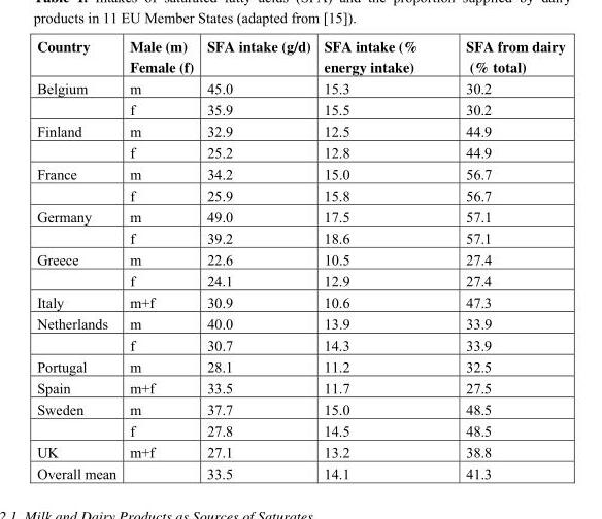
<table><thead><tr><td>Country</td><td>Male (m) Female (f)</td><td>SFA intake (g/d)</td><td>SFA intake (% energy intake)</td><td>SFA from dairy (% total)</td></tr></thead><tbody><tr><td rowspan="2">Belgium</td><td>m</td><td>45.0</td><td>15.3</td><td>30.2</td></tr><tr><td>f</td><td>35.9</td><td>15.5</td><td>30.2</td></tr><tr><td rowspan="2">Finland</td><td>m</td><td>32.9</td><td>12.5</td><td>44.9</td></tr><tr><td>f</td><td>25.2</td><td>12.8</td><td>44.9</td></tr><tr><td rowspan="2">France</td><td>m</td><td>34.2</td><td>15.0</td><td>56.7</td></tr><tr><td>f</td><td>25.9</td><td>15.8</td><td>56.7</td></tr><tr><td rowspan="2">Germany</td><td>m</td><td>49.0</td><td>17.5</td><td>57.1</td></tr><tr><td>f</td><td>39.2</td><td>18.6</td><td>57.1</td></tr><tr><td rowspan="2">Greece</td><td>m</td><td>22.6</td><td>10.5</td><td>27.4</td></tr><tr><td>f</td><td>24.1</td><td>12.9</td><td>27.4</td></tr><tr><td>Italy</td><td>m+f</td><td>30.9</td><td>10.6</td><td>47.3</td></tr><tr><td rowspan="2">Netherlands</td><td>m</td><td>40.0</td><td>13.9</td><td>33.9</td></tr><tr><td>f</td><td>30.7</td><td>14.3</td><td>33.9</td></tr><tr><td>Portugal</td><td>m</td><td>28.1</td><td>11.2</td><td>32.5</td></tr><tr><td>Spain</td><td>m+f</td><td>33.5</td><td>11.7</td><td>27.5</td></tr><tr><td rowspan="2">Sweden</td><td>m</td><td>37.7</td><td>15.0</td><td>48.5</td></tr><tr><td>f</td><td>27.8</td><td>14.5</td><td>48.5</td></tr><tr><td>UK</td><td>m+f</td><td>27.1</td><td>13.2</td><td>38.8</td></tr><tr><td>Overall mean</td><td></td><td>33.5</td><td>14.1</td><td>41.3</td></tr></tbody></table>